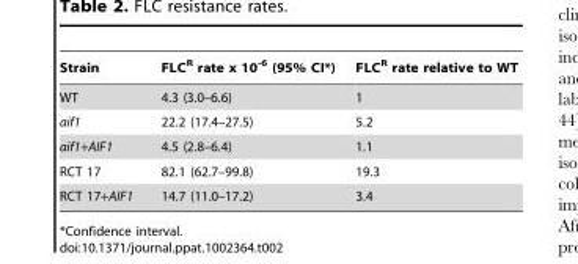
<table><thead><tr><td>Strain</td><td>FLC<sup>R</sup> rate x 10<sup>-6</sup> (95% CI*)</td><td>FLC<sup>R</sup> rate relative to WT</td></tr></thead><tbody><tr><td>WT</td><td>4.3 (3.0–6.6)</td><td>1</td></tr><tr><td>aif1</td><td>22.2 (17.4–27.5)</td><td>5.2</td></tr><tr><td>aif1+AIF1</td><td>4.5 (2.8–6.4)</td><td>1.1</td></tr><tr><td>RCT 17</td><td>82.1 (62.7–99.8)</td><td>19.3</td></tr><tr><td>RCT 17+AIF1</td><td>14.7 (11.0–17.2)</td><td>3.4</td></tr></tbody></table>